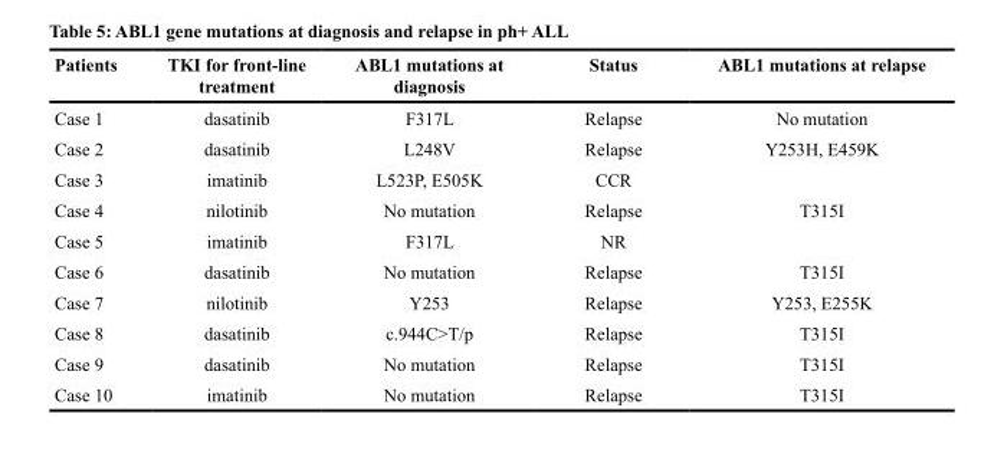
<table><thead><tr><td>Patients</td><td>TKI for front-line treatment</td><td>ABL1 mutations at diagnosis</td><td>Status</td><td>ABL1 mutations at relapse</td></tr></thead><tbody><tr><td>Case 1</td><td>dasatinib</td><td>F317L</td><td>Relapse</td><td>No mutation</td></tr><tr><td>Case 2</td><td>dasatinib</td><td>L248V</td><td>Relapse</td><td>Y253H, E459K</td></tr><tr><td>Case 3</td><td>imatinib</td><td>L523P, E505K</td><td>CCR</td><td></td></tr><tr><td>Case 4</td><td>nilotinib</td><td>No mutation</td><td>Relapse</td><td>T315I</td></tr><tr><td>Case 5</td><td>imatinib</td><td>F317L</td><td>NR</td><td></td></tr><tr><td>Case 6</td><td>dasatinib</td><td>No mutation</td><td>Relapse</td><td>T315I</td></tr><tr><td>Case 7</td><td>nilotinib</td><td>Y253</td><td>Relapse</td><td>Y253, E255K</td></tr><tr><td>Case 8</td><td>dasatinib</td><td>c.944C&gt;T/p</td><td>Relapse</td><td>T315I</td></tr><tr><td>Case 9</td><td>dasatinib</td><td>No mutation</td><td>Relapse</td><td>T315I</td></tr><tr><td>Case 10</td><td>imatinib</td><td>No mutation</td><td>Relapse</td><td>T315I</td></tr></tbody></table>